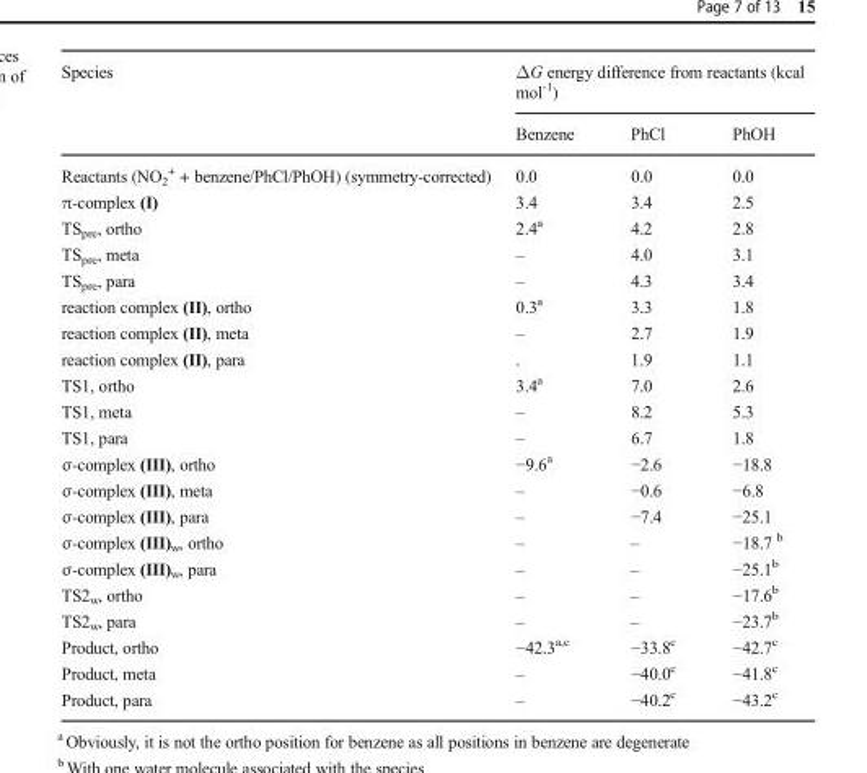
<table><thead><tr><td rowspan="2">Species</td><td colspan="3">ΔG energy difference from reactants (kcal mol<sup>-1</sup>)</td></tr><tr><td>Benzene</td><td>PhCl</td><td>PhOH</td></tr></thead><tbody><tr><td>Reactants (NO<sub>2</sub> <sup>+</sup> + benzene/PhCl/PhOH) (symmetry-corrected)</td><td>0.0</td><td>0.0</td><td>0.0</td></tr><tr><td>π-complex (I)</td><td>3.4</td><td>3.4</td><td>2.5</td></tr><tr><td>TS<sub>pre</sub>, ortho</td><td>2.4<sup>a</sup></td><td>4.2</td><td>2.8</td></tr><tr><td>TS<sub>pre</sub>, meta</td><td>–</td><td>4.0</td><td>3.1</td></tr><tr><td>TS<sub>pre</sub>, para</td><td>–</td><td>4.3</td><td>3.4</td></tr><tr><td>reaction complex (II), ortho</td><td>0.3<sup>a</sup></td><td>3.3</td><td>1.8</td></tr><tr><td>reaction complex (II), meta</td><td>–</td><td>2.7</td><td>1.9</td></tr><tr><td>reaction complex (II), para</td><td>.</td><td>1.9</td><td>1.1</td></tr><tr><td>TS1, ortho</td><td>3.4<sup>a</sup></td><td>7.0</td><td>2.6</td></tr><tr><td>TS1, meta</td><td>–</td><td>8.2</td><td>5.3</td></tr><tr><td>TS1, para</td><td>–</td><td>6.7</td><td>1.8</td></tr><tr><td>σ-complex (III), ortho</td><td>−9.6<sup>a</sup></td><td>−2.6</td><td>−18.8</td></tr><tr><td>σ-complex (III), meta</td><td>–</td><td>−0.6</td><td>−6.8</td></tr><tr><td>σ-complex (III), para</td><td>–</td><td>−7.4</td><td>−25.1</td></tr><tr><td>σ-complex (III)<sub>w</sub>, ortho</td><td>–</td><td>–</td><td>−18.7 <sup>b</sup></td></tr><tr><td>σ-complex (III)<sub>w</sub>, para</td><td>–</td><td>–</td><td>−25.1<sup>b</sup></td></tr><tr><td>TS2<sub>w</sub>, ortho</td><td>–</td><td>–</td><td>−17.6<sup>b</sup></td></tr><tr><td>TS2<sub>w</sub>, para</td><td>–</td><td>–</td><td>−23.7<sup>b</sup></td></tr><tr><td>Product, ortho</td><td>−42.3<sup>a,c</sup></td><td>−33.8<sup>c</sup></td><td>−42.7<sup>c</sup></td></tr><tr><td>Product, meta</td><td>–</td><td>−40.0<sup>c</sup></td><td>−41.8<sup>c</sup></td></tr><tr><td>Product, para</td><td>–</td><td>−40.2<sup>c</sup></td><td>−43.2<sup>c</sup></td></tr></tbody></table>